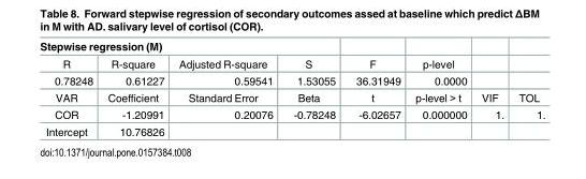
<table><thead><tr><td colspan="4">Stepwise regression (M)</td><td rowspan="2">F</td><td rowspan="2">p-level</td><td rowspan="2"></td><td rowspan="2"></td></tr><tr><td>R</td><td>R-square</td><td>Adjusted R-square</td><td>S</td></tr></thead><tbody><tr><td>0.78248</td><td>0.61227</td><td>0.59541</td><td>1.53055</td><td>36.31949</td><td>0.0000</td><td></td><td></td></tr><tr><td>VAR</td><td>Coefficient</td><td>Standard Error</td><td>Beta</td><td>t</td><td>p-level &gt; t</td><td>VIF</td><td>TOL</td></tr><tr><td>COR</td><td>-1.20991</td><td>0.20076</td><td>-0.78248</td><td>-6.02657</td><td>0.000000</td><td>1.</td><td>1.</td></tr><tr><td>Intercept</td><td>10.76826</td><td></td><td></td><td></td><td></td><td></td><td></td></tr></tbody></table>